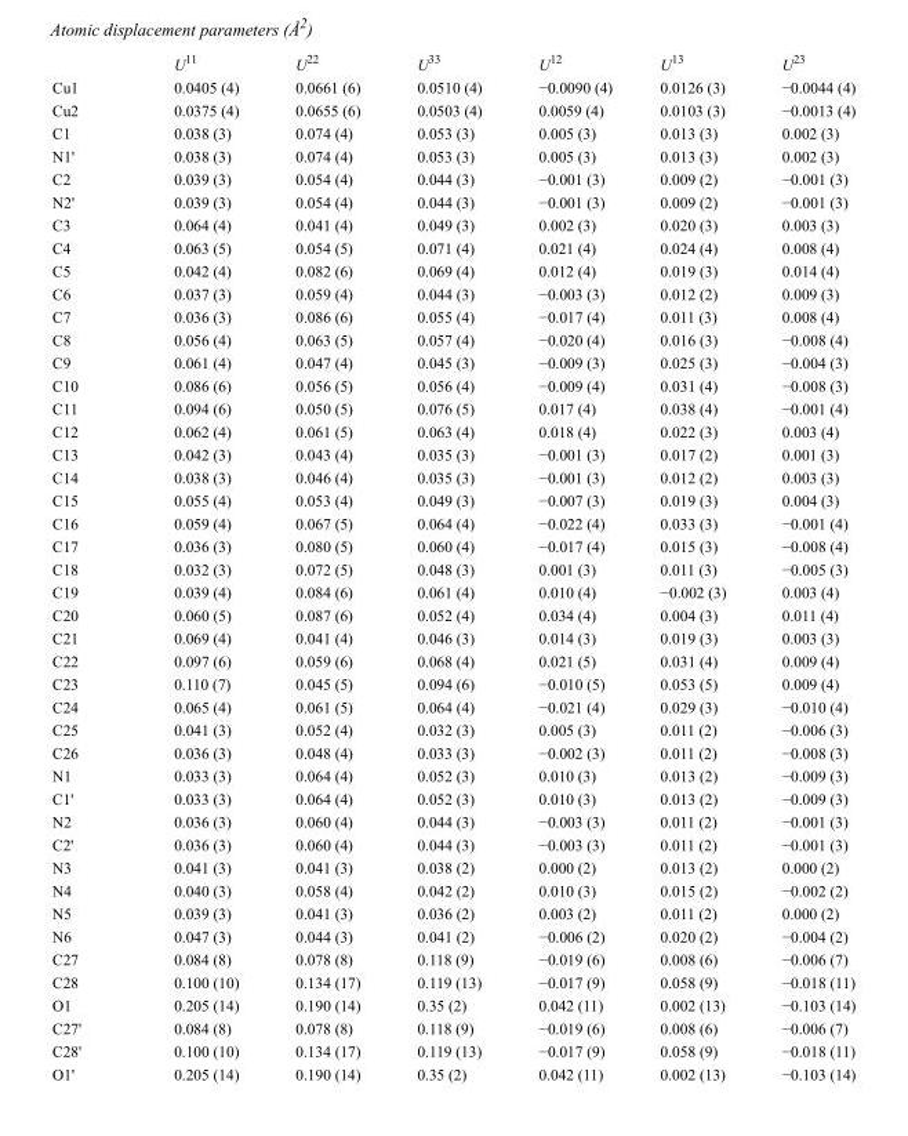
<table><thead><tr><td></td><td>U<sup>11</sup></td><td>U<sup>22</sup></td><td>U<sup>33</sup></td><td>U<sup>12</sup></td><td>U<sup>13</sup></td><td>U<sup>23</sup></td></tr></thead><tbody><tr><td>Cu1</td><td>0.0405 (4)</td><td>0.0661 (6)</td><td>0.0510 (4)</td><td>−0.0090 (4)</td><td>0.0126 (3)</td><td>−0.0044 (4)</td></tr><tr><td>Cu2</td><td>0.0375 (4)</td><td>0.0655 (6)</td><td>0.0503 (4)</td><td>0.0059 (4)</td><td>0.0103 (3)</td><td>−0.0013 (4)</td></tr><tr><td>C1</td><td>0.038 (3)</td><td>0.074 (4)</td><td>0.053 (3)</td><td>0.005 (3)</td><td>0.013 (3)</td><td>0.002 (3)</td></tr><tr><td>N1&#x27;</td><td>0.038 (3)</td><td>0.074 (4)</td><td>0.053 (3)</td><td>0.005 (3)</td><td>0.013 (3)</td><td>0.002 (3)</td></tr><tr><td>C2</td><td>0.039 (3)</td><td>0.054 (4)</td><td>0.044 (3)</td><td>−0.001 (3)</td><td>0.009 (2)</td><td>−0.001 (3)</td></tr><tr><td>N2&#x27;</td><td>0.039 (3)</td><td>0.054 (4)</td><td>0.044 (3)</td><td>−0.001 (3)</td><td>0.009 (2)</td><td>−0.001 (3)</td></tr><tr><td>C3</td><td>0.064 (4)</td><td>0.041 (4)</td><td>0.049 (3)</td><td>0.002 (3)</td><td>0.020 (3)</td><td>0.003 (3)</td></tr><tr><td>C4</td><td>0.063 (5)</td><td>0.054 (5)</td><td>0.071 (4)</td><td>0.021 (4)</td><td>0.024 (4)</td><td>0.008 (4)</td></tr><tr><td>C5</td><td>0.042 (4)</td><td>0.082 (6)</td><td>0.069 (4)</td><td>0.012 (4)</td><td>0.019 (3)</td><td>0.014 (4)</td></tr><tr><td>C6</td><td>0.037 (3)</td><td>0.059 (4)</td><td>0.044 (3)</td><td>−0.003 (3)</td><td>0.012 (2)</td><td>0.009 (3)</td></tr><tr><td>C7</td><td>0.036 (3)</td><td>0.086 (6)</td><td>0.055 (4)</td><td>−0.017 (4)</td><td>0.011 (3)</td><td>0.008 (4)</td></tr><tr><td>C8</td><td>0.056 (4)</td><td>0.063 (5)</td><td>0.057 (4)</td><td>−0.020 (4)</td><td>0.016 (3)</td><td>−0.008 (4)</td></tr><tr><td>C9</td><td>0.061 (4)</td><td>0.047 (4)</td><td>0.045 (3)</td><td>−0.009 (3)</td><td>0.025 (3)</td><td>−0.004 (3)</td></tr><tr><td>C10</td><td>0.086 (6)</td><td>0.056 (5)</td><td>0.056 (4)</td><td>−0.009 (4)</td><td>0.031 (4)</td><td>−0.008 (3)</td></tr><tr><td>C11</td><td>0.094 (6)</td><td>0.050 (5)</td><td>0.076 (5)</td><td>0.017 (4)</td><td>0.038 (4)</td><td>−0.001 (4)</td></tr><tr><td>C12</td><td>0.062 (4)</td><td>0.061 (5)</td><td>0.063 (4)</td><td>0.018 (4)</td><td>0.022 (3)</td><td>0.003 (4)</td></tr><tr><td>C13</td><td>0.042 (3)</td><td>0.043 (4)</td><td>0.035 (3)</td><td>−0.001 (3)</td><td>0.017 (2)</td><td>0.001 (3)</td></tr><tr><td>C14</td><td>0.038 (3)</td><td>0.046 (4)</td><td>0.035 (3)</td><td>−0.001 (3)</td><td>0.012 (2)</td><td>0.003 (3)</td></tr><tr><td>C15</td><td>0.055 (4)</td><td>0.053 (4)</td><td>0.049 (3)</td><td>−0.007 (3)</td><td>0.019 (3)</td><td>0.004 (3)</td></tr><tr><td>C16</td><td>0.059 (4)</td><td>0.067 (5)</td><td>0.064 (4)</td><td>−0.022 (4)</td><td>0.033 (3)</td><td>−0.001 (4)</td></tr><tr><td>C17</td><td>0.036 (3)</td><td>0.080 (5)</td><td>0.060 (4)</td><td>−0.017 (4)</td><td>0.015 (3)</td><td>−0.008 (4)</td></tr><tr><td>C18</td><td>0.032 (3)</td><td>0.072 (5)</td><td>0.048 (3)</td><td>0.001 (3)</td><td>0.011 (3)</td><td>−0.005 (3)</td></tr><tr><td>C19</td><td>0.039 (4)</td><td>0.084 (6)</td><td>0.061 (4)</td><td>0.010 (4)</td><td>−0.002 (3)</td><td>0.003 (4)</td></tr><tr><td>C20</td><td>0.060 (5)</td><td>0.087 (6)</td><td>0.052 (4)</td><td>0.034 (4)</td><td>0.004 (3)</td><td>0.011 (4)</td></tr><tr><td>C21</td><td>0.069 (4)</td><td>0.041 (4)</td><td>0.046 (3)</td><td>0.014 (3)</td><td>0.019 (3)</td><td>0.003 (3)</td></tr><tr><td>C22</td><td>0.097 (6)</td><td>0.059 (6)</td><td>0.068 (4)</td><td>0.021 (5)</td><td>0.031 (4)</td><td>0.009 (4)</td></tr><tr><td>C23</td><td>0.110 (7)</td><td>0.045 (5)</td><td>0.094 (6)</td><td>−0.010 (5)</td><td>0.053 (5)</td><td>0.009 (4)</td></tr><tr><td>C24</td><td>0.065 (4)</td><td>0.061 (5)</td><td>0.064 (4)</td><td>−0.021 (4)</td><td>0.029 (3)</td><td>−0.010 (4)</td></tr><tr><td>C25</td><td>0.041 (3)</td><td>0.052 (4)</td><td>0.032 (3)</td><td>0.005 (3)</td><td>0.011 (2)</td><td>−0.006 (3)</td></tr><tr><td>C26</td><td>0.036 (3)</td><td>0.048 (4)</td><td>0.033 (3)</td><td>−0.002 (3)</td><td>0.011 (2)</td><td>−0.008 (3)</td></tr><tr><td>N1</td><td>0.033 (3)</td><td>0.064 (4)</td><td>0.052 (3)</td><td>0.010 (3)</td><td>0.013 (2)</td><td>−0.009 (3)</td></tr><tr><td>C1&#x27;</td><td>0.033 (3)</td><td>0.064 (4)</td><td>0.052 (3)</td><td>0.010 (3)</td><td>0.013 (2)</td><td>−0.009 (3)</td></tr><tr><td>N2</td><td>0.036 (3)</td><td>0.060 (4)</td><td>0.044 (3)</td><td>−0.003 (3)</td><td>0.011 (2)</td><td>−0.001 (3)</td></tr><tr><td>C2&#x27;</td><td>0.036 (3)</td><td>0.060 (4)</td><td>0.044 (3)</td><td>−0.003 (3)</td><td>0.011 (2)</td><td>−0.001 (3)</td></tr><tr><td>N3</td><td>0.041 (3)</td><td>0.041 (3)</td><td>0.038 (2)</td><td>0.000 (2)</td><td>0.013 (2)</td><td>0.000 (2)</td></tr><tr><td>N4</td><td>0.040 (3)</td><td>0.058 (4)</td><td>0.042 (2)</td><td>0.010 (3)</td><td>0.015 (2)</td><td>−0.002 (2)</td></tr><tr><td>N5</td><td>0.039 (3)</td><td>0.041 (3)</td><td>0.036 (2)</td><td>0.003 (2)</td><td>0.011 (2)</td><td>0.000 (2)</td></tr><tr><td>N6</td><td>0.047 (3)</td><td>0.044 (3)</td><td>0.041 (2)</td><td>−0.006 (2)</td><td>0.020 (2)</td><td>−0.004 (2)</td></tr><tr><td>C27</td><td>0.084 (8)</td><td>0.078 (8)</td><td>0.118 (9)</td><td>−0.019 (6)</td><td>0.008 (6)</td><td>−0.006 (7)</td></tr><tr><td>C28</td><td>0.100 (10)</td><td>0.134 (17)</td><td>0.119 (13)</td><td>−0.017 (9)</td><td>0.058 (9)</td><td>−0.018 (11)</td></tr><tr><td>O1</td><td>0.205 (14)</td><td>0.190 (14)</td><td>0.35 (2)</td><td>0.042 (11)</td><td>0.002 (13)</td><td>−0.103 (14)</td></tr><tr><td>C27&#x27;</td><td>0.084 (8)</td><td>0.078 (8)</td><td>0.118 (9)</td><td>−0.019 (6)</td><td>0.008 (6)</td><td>−0.006 (7)</td></tr><tr><td>C28&#x27;</td><td>0.100 (10)</td><td>0.134 (17)</td><td>0.119 (13)</td><td>−0.017 (9)</td><td>0.058 (9)</td><td>−0.018 (11)</td></tr><tr><td>O1&#x27;</td><td>0.205 (14)</td><td>0.190 (14)</td><td>0.35 (2)</td><td>0.042 (11)</td><td>0.002 (13)</td><td>−0.103 (14)</td></tr></tbody></table>